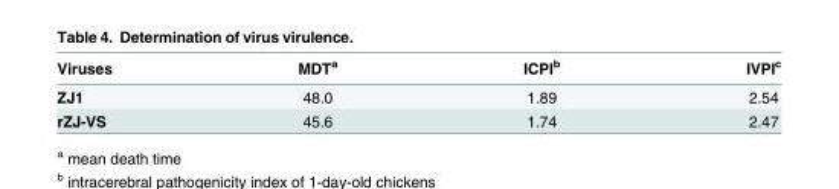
<table><thead><tr><td>Viruses</td><td>MDT<sup>a</sup></td><td>ICPI<sup>b</sup></td><td>IVPI<sup>c</sup></td></tr></thead><tbody><tr><td>ZJ1</td><td>48.0</td><td>1.89</td><td>2.54</td></tr><tr><td>rZJ-VS</td><td>45.6</td><td>1.74</td><td>2.47</td></tr></tbody></table>